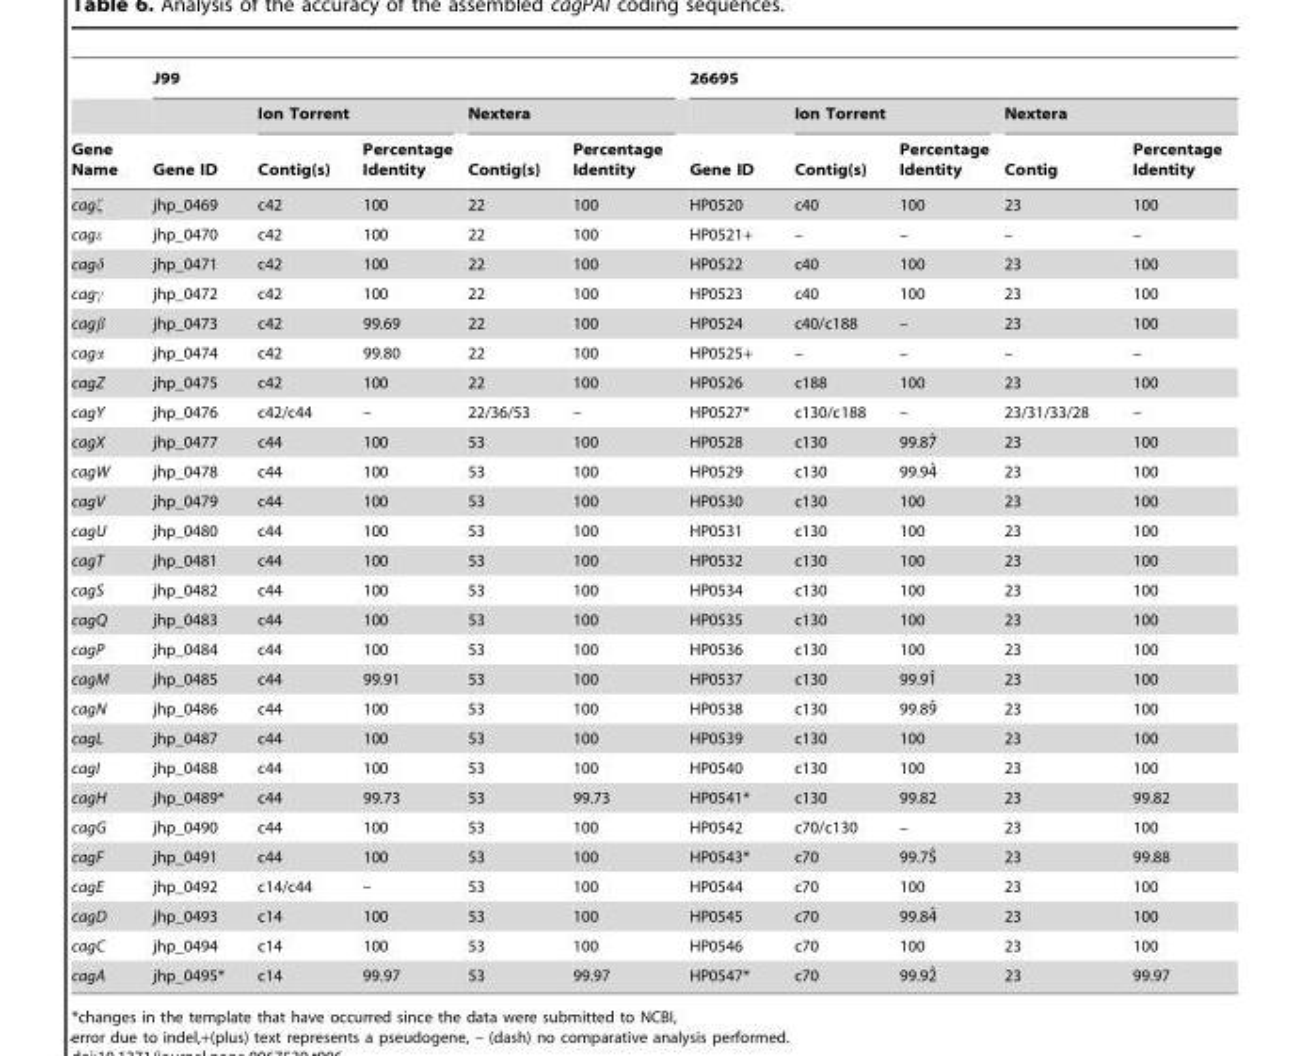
<table><thead><tr><td rowspan="3">Gene Name</td><td colspan="5">J99</td><td colspan="5">26695</td></tr><tr><td rowspan="2">Gene ID</td><td colspan="2">Ion Torrent</td><td colspan="2">Nextera</td><td rowspan="2">Gene ID</td><td colspan="2">Ion Torrent</td><td colspan="2">Nextera</td></tr><tr><td>Contig(s)</td><td>Percentage Identity</td><td>Contig(s)</td><td>Percentage Identity</td><td>Contig(s)</td><td>Percentage Identity</td><td>Contig</td><td>Percentage Identity</td></tr></thead><tbody><tr><td>cagζ</td><td>jhp_0469</td><td>c42</td><td>100</td><td>22</td><td>100</td><td>HP0520</td><td>c40</td><td>100</td><td>23</td><td>100</td></tr><tr><td>cagε</td><td>jhp_0470</td><td>c42</td><td>100</td><td>22</td><td>100</td><td>HP0521+</td><td>–</td><td>–</td><td>–</td><td>–</td></tr><tr><td>cagδ</td><td>jhp_0471</td><td>c42</td><td>100</td><td>22</td><td>100</td><td>HP0522</td><td>c40</td><td>100</td><td>23</td><td>100</td></tr><tr><td>cagγ</td><td>jhp_0472</td><td>c42</td><td>100</td><td>22</td><td>100</td><td>HP0523</td><td>c40</td><td>100</td><td>23</td><td>100</td></tr><tr><td>cagβ</td><td>jhp_0473</td><td>c42</td><td>99.69</td><td>22</td><td>100</td><td>HP0524</td><td>c40/c188</td><td>–</td><td>23</td><td>100</td></tr><tr><td>cagα</td><td>jhp_0474</td><td>c42</td><td>99.80</td><td>22</td><td>100</td><td>HP0525+</td><td>–</td><td>–</td><td>–</td><td>–</td></tr><tr><td>cagZ</td><td>jhp_0475</td><td>c42</td><td>100</td><td>22</td><td>100</td><td>HP0526</td><td>c188</td><td>100</td><td>23</td><td>100</td></tr><tr><td>cagY</td><td>jhp_0476</td><td>c42/c44</td><td>–</td><td>22/36/53</td><td>–</td><td>HP0527*</td><td>c130/c188</td><td>–</td><td>23/31/33/28</td><td>–</td></tr><tr><td>cagX</td><td>jhp_0477</td><td>c44</td><td>100</td><td>53</td><td>100</td><td>HP0528</td><td>c130</td><td>99.87ˆ</td><td>23</td><td>100</td></tr><tr><td>cagW</td><td>jhp_0478</td><td>c44</td><td>100</td><td>53</td><td>100</td><td>HP0529</td><td>c130</td><td>99.94ˆ</td><td>23</td><td>100</td></tr><tr><td>cagV</td><td>jhp_0479</td><td>c44</td><td>100</td><td>53</td><td>100</td><td>HP0530</td><td>c130</td><td>100</td><td>23</td><td>100</td></tr><tr><td>cagU</td><td>jhp_0480</td><td>c44</td><td>100</td><td>53</td><td>100</td><td>HP0531</td><td>c130</td><td>100</td><td>23</td><td>100</td></tr><tr><td>cagT</td><td>jhp_0481</td><td>c44</td><td>100</td><td>53</td><td>100</td><td>HP0532</td><td>c130</td><td>100</td><td>23</td><td>100</td></tr><tr><td>cagS</td><td>jhp_0482</td><td>c44</td><td>100</td><td>53</td><td>100</td><td>HP0534</td><td>c130</td><td>100</td><td>23</td><td>100</td></tr><tr><td>cagQ</td><td>jhp_0483</td><td>c44</td><td>100</td><td>53</td><td>100</td><td>HP0535</td><td>c130</td><td>100</td><td>23</td><td>100</td></tr><tr><td>cagP</td><td>jhp_0484</td><td>c44</td><td>100</td><td>53</td><td>100</td><td>HP0536</td><td>c130</td><td>100</td><td>23</td><td>100</td></tr><tr><td>cagM</td><td>jhp_0485</td><td>c44</td><td>99.91</td><td>53</td><td>100</td><td>HP0537</td><td>c130</td><td>99.91ˆ</td><td>23</td><td>100</td></tr><tr><td>cagN</td><td>jhp_0486</td><td>c44</td><td>100</td><td>53</td><td>100</td><td>HP0538</td><td>c130</td><td>99.89ˆ</td><td>23</td><td>100</td></tr><tr><td>cagL</td><td>jhp_0487</td><td>c44</td><td>100</td><td>53</td><td>100</td><td>HP0539</td><td>c130</td><td>100</td><td>23</td><td>100</td></tr><tr><td>cagI</td><td>jhp_0488</td><td>c44</td><td>100</td><td>53</td><td>100</td><td>HP0540</td><td>c130</td><td>100</td><td>23</td><td>100</td></tr><tr><td>cagH</td><td>jhp_0489*</td><td>c44</td><td>99.73</td><td>53</td><td>99.73</td><td>HP0541*</td><td>c130</td><td>99.82</td><td>23</td><td>99.82</td></tr><tr><td>cagG</td><td>jhp_0490</td><td>c44</td><td>100</td><td>53</td><td>100</td><td>HP0542</td><td>c70/c130</td><td>–</td><td>23</td><td>100</td></tr><tr><td>cagF</td><td>jhp_0491</td><td>c44</td><td>100</td><td>53</td><td>100</td><td>HP0543*</td><td>c70</td><td>99.75ˆ</td><td>23</td><td>99.88</td></tr><tr><td>cagE</td><td>jhp_0492</td><td>c14/c44</td><td>–</td><td>53</td><td>100</td><td>HP0544</td><td>c70</td><td>100</td><td>23</td><td>100</td></tr><tr><td>cagD</td><td>jhp_0493</td><td>c14</td><td>100</td><td>53</td><td>100</td><td>HP0545</td><td>c70</td><td>99.84ˆ</td><td>23</td><td>100</td></tr><tr><td>cagC</td><td>jhp_0494</td><td>c14</td><td>100</td><td>53</td><td>100</td><td>HP0546</td><td>c70</td><td>100</td><td>23</td><td>100</td></tr><tr><td>cagA</td><td>jhp_0495*</td><td>c14</td><td>99.97</td><td>53</td><td>99.97</td><td>HP0547*</td><td>c70</td><td>99.92ˆ</td><td>23</td><td>99.97</td></tr></tbody></table>